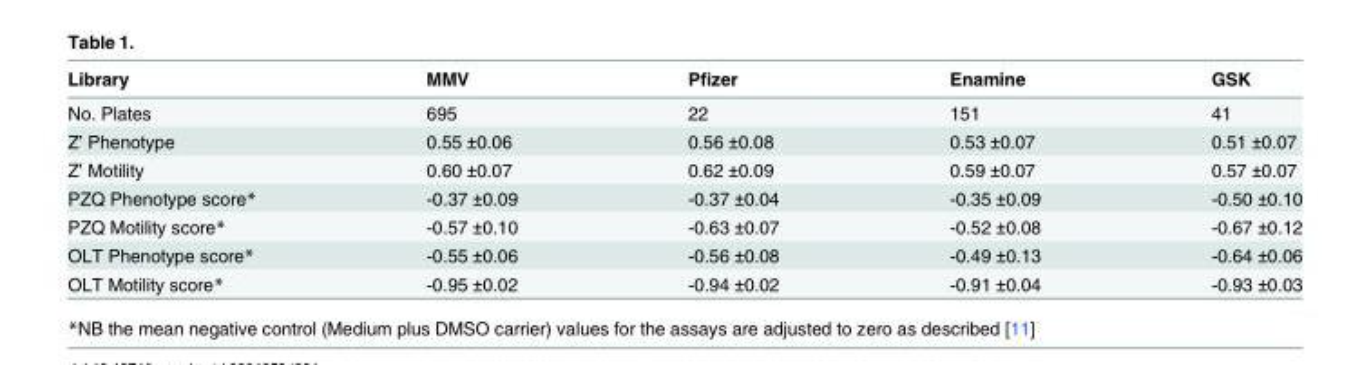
<table><thead><tr><td>Library</td><td>MMV</td><td>Pfizer</td><td>Enamine</td><td>GSK</td></tr></thead><tbody><tr><td>No. Plates</td><td>695</td><td>22</td><td>151</td><td>41</td></tr><tr><td>Z’ Phenotype</td><td>0.55 ±0.06</td><td>0.56 ±0.08</td><td>0.53 ±0.07</td><td>0.51 ±0.07</td></tr><tr><td>Z’ Motility</td><td>0.60 ±0.07</td><td>0.62 ±0.09</td><td>0.59 ±0.07</td><td>0.57 ±0.07</td></tr><tr><td>PZQ Phenotype score*</td><td>-0.37 ±0.09</td><td>-0.37 ±0.04</td><td>-0.35 ±0.09</td><td>-0.50 ±0.10</td></tr><tr><td>PZQ Motility score*</td><td>-0.57 ±0.10</td><td>-0.63 ±0.07</td><td>-0.52 ±0.08</td><td>-0.67 ±0.12</td></tr><tr><td>OLT Phenotype score*</td><td>-0.55 ±0.06</td><td>-0.56 ±0.08</td><td>-0.49 ±0.13</td><td>-0.64 ±0.06</td></tr><tr><td>OLT Motility score*</td><td>-0.95 ±0.02</td><td>-0.94 ±0.02</td><td>-0.91 ±0.04</td><td>-0.93 ±0.03</td></tr></tbody></table>